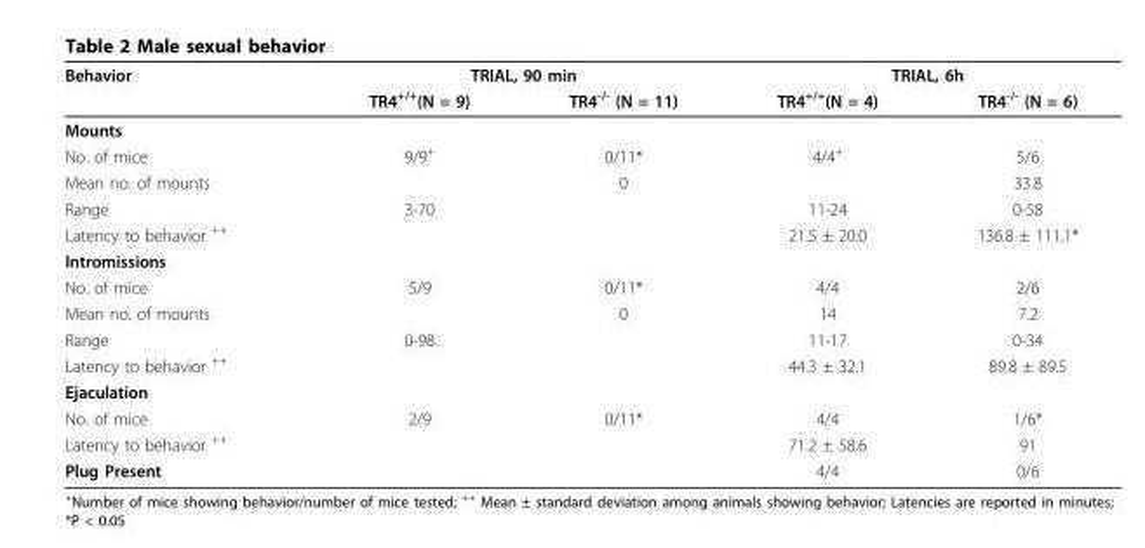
<table><thead><tr><td rowspan="2">Behavior</td><td colspan="2">TRIAL, 90 min</td><td colspan="2">TRIAL, 6h</td></tr><tr><td>TR4<sup>+/+</sup>(N = 9)</td><td>TR4<sup>-/-</sup> (N = 11)</td><td>TR4<sup>+/+</sup>(N = 4)</td><td>TR4<sup>-/-</sup> (N = 6)</td></tr></thead><tbody><tr><td colspan="5">Mounts</td></tr><tr><td>No. of mice</td><td>9/9<sup>+</sup></td><td>0/11*</td><td>4/4<sup>+</sup></td><td>5/6</td></tr><tr><td>Mean no. of mounts</td><td></td><td>0</td><td></td><td>33.8</td></tr><tr><td>Range</td><td>3-70</td><td></td><td>11-24</td><td>0-58</td></tr><tr><td>Latency to behavior <sup>++</sup></td><td></td><td></td><td>21.5 ± 20.0</td><td>136.8 ± 111.1*</td></tr><tr><td colspan="5">Intromissions</td></tr><tr><td>No. of mice</td><td>5/9</td><td>0/11*</td><td>4/4</td><td>2/6</td></tr><tr><td>Mean no. of mounts</td><td></td><td>0</td><td>14</td><td>7.2</td></tr><tr><td>Range</td><td>0-98</td><td></td><td>11-17</td><td>0-34</td></tr><tr><td>Latency to behavior <sup>++</sup></td><td></td><td></td><td>44.3 ± 32.1</td><td>89.8 ± 89.5</td></tr><tr><td colspan="5">Ejaculation</td></tr><tr><td>No. of mice</td><td>2/9</td><td>0/11*</td><td>4/4</td><td>1/6*</td></tr><tr><td>Latency to behavior <sup>++</sup></td><td></td><td></td><td>71.2 ± 58.6</td><td>91</td></tr><tr><td>Plug Present</td><td></td><td></td><td>4/4</td><td>0/6</td></tr></tbody></table>